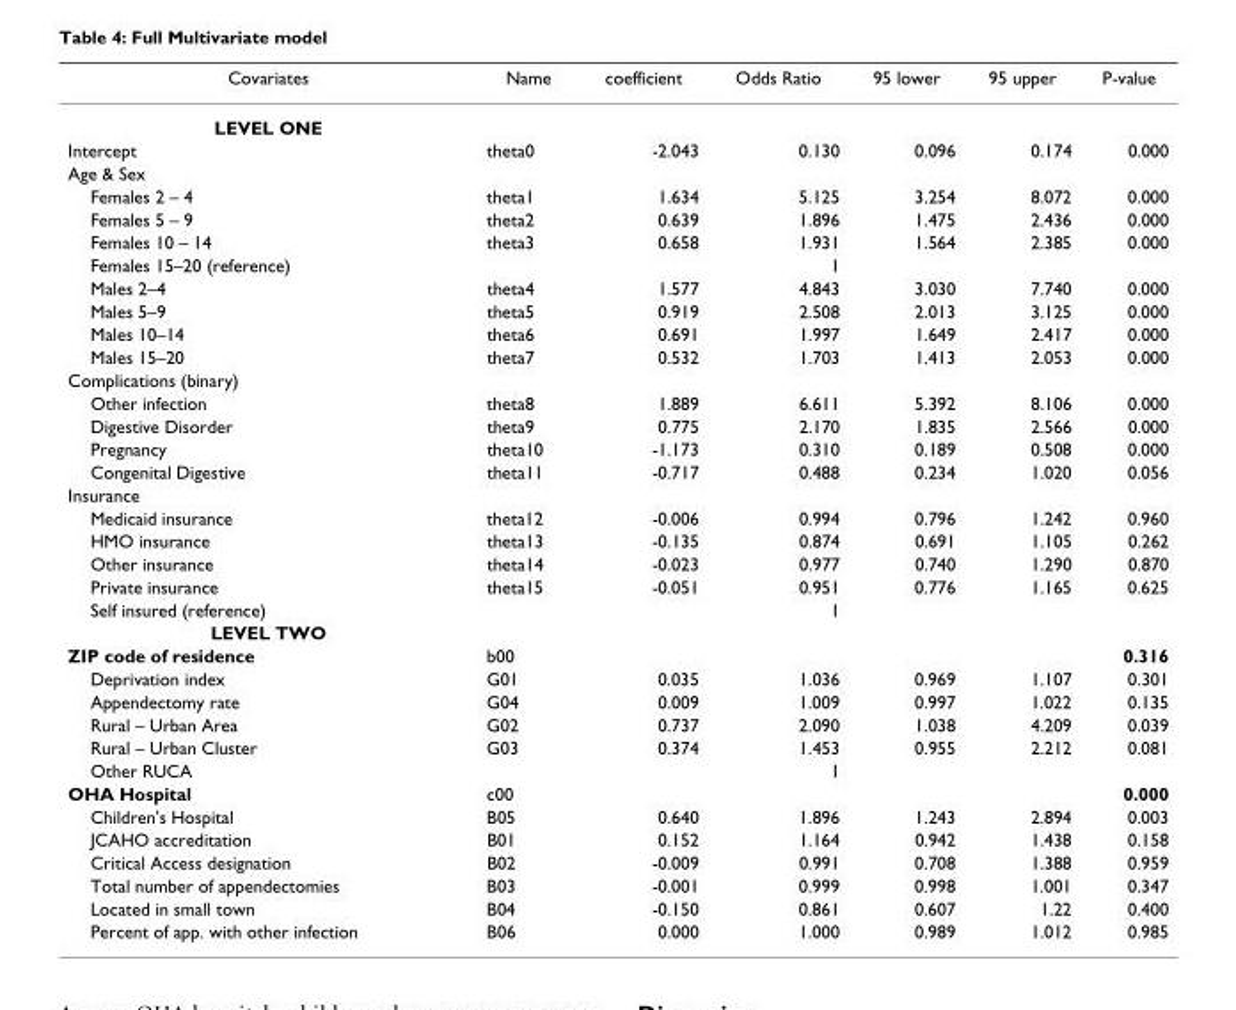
<table><thead><tr><td>Covariates</td><td>Name</td><td>coefficient</td><td>Odds Ratio</td><td>95 lower</td><td>95 upper</td><td>P-value</td></tr></thead><tbody><tr><td colspan="7">LEVEL ONE</td></tr><tr><td>Intercept</td><td>theta0</td><td>-2.043</td><td>0.130</td><td>0.096</td><td>0.174</td><td>0.000</td></tr><tr><td colspan="7">Age &amp; Sex</td></tr><tr><td>Females 2 – 4</td><td>theta1</td><td>1.634</td><td>5.125</td><td>3.254</td><td>8.072</td><td>0.000</td></tr><tr><td>Females 5 – 9</td><td>theta2</td><td>0.639</td><td>1.896</td><td>1.475</td><td>2.436</td><td>0.000</td></tr><tr><td>Females 10 – 14</td><td>theta3</td><td>0.658</td><td>1.931</td><td>1.564</td><td>2.385</td><td>0.000</td></tr><tr><td>Females 15–20 (reference)</td><td></td><td></td><td>1</td><td></td><td></td><td></td></tr><tr><td>Males 2–4</td><td>theta4</td><td>1.577</td><td>4.843</td><td>3.030</td><td>7.740</td><td>0.000</td></tr><tr><td>Males 5–9</td><td>theta5</td><td>0.919</td><td>2.508</td><td>2.013</td><td>3.125</td><td>0.000</td></tr><tr><td>Males 10–14</td><td>theta6</td><td>0.691</td><td>1.997</td><td>1.649</td><td>2.417</td><td>0.000</td></tr><tr><td>Males 15–20</td><td>theta7</td><td>0.532</td><td>1.703</td><td>1.413</td><td>2.053</td><td>0.000</td></tr><tr><td colspan="7">Complications (binary)</td></tr><tr><td>Other infection</td><td>theta8</td><td>1.889</td><td>6.611</td><td>5.392</td><td>8.106</td><td>0.000</td></tr><tr><td>Digestive Disorder</td><td>theta9</td><td>0.775</td><td>2.170</td><td>1.835</td><td>2.566</td><td>0.000</td></tr><tr><td>Pregnancy</td><td>theta10</td><td>-1.173</td><td>0.310</td><td>0.189</td><td>0.508</td><td>0.000</td></tr><tr><td>Congenital Digestive</td><td>theta11</td><td>-0.717</td><td>0.488</td><td>0.234</td><td>1.020</td><td>0.056</td></tr><tr><td colspan="7">Insurance</td></tr><tr><td>Medicaid insurance</td><td>theta12</td><td>-0.006</td><td>0.994</td><td>0.796</td><td>1.242</td><td>0.960</td></tr><tr><td>HMO insurance</td><td>theta13</td><td>-0.135</td><td>0.874</td><td>0.691</td><td>1.105</td><td>0.262</td></tr><tr><td>Other insurance</td><td>theta14</td><td>-0.023</td><td>0.977</td><td>0.740</td><td>1.290</td><td>0.870</td></tr><tr><td>Private insurance</td><td>theta15</td><td>-0.051</td><td>0.951</td><td>0.776</td><td>1.165</td><td>0.625</td></tr><tr><td>Self insured (reference)</td><td></td><td></td><td>1</td><td></td><td></td><td></td></tr><tr><td colspan="7">LEVEL TWO</td></tr><tr><td>ZIP code of residence</td><td>b00</td><td></td><td></td><td></td><td></td><td>0.316</td></tr><tr><td>Deprivation index</td><td>G01</td><td>0.035</td><td>1.036</td><td>0.969</td><td>1.107</td><td>0.301</td></tr><tr><td>Appendectomy rate</td><td>G04</td><td>0.009</td><td>1.009</td><td>0.997</td><td>1.022</td><td>0.135</td></tr><tr><td>Rural – Urban Area</td><td>G02</td><td>0.737</td><td>2.090</td><td>1.038</td><td>4.209</td><td>0.039</td></tr><tr><td>Rural – Urban Cluster</td><td>G03</td><td>0.374</td><td>1.453</td><td>0.955</td><td>2.212</td><td>0.081</td></tr><tr><td>Other RUCA</td><td></td><td></td><td>1</td><td></td><td></td><td></td></tr><tr><td>OHA Hospital</td><td>c00</td><td></td><td></td><td></td><td></td><td>0.000</td></tr><tr><td>Children&#x27;s Hospital</td><td>B05</td><td>0.640</td><td>1.896</td><td>1.243</td><td>2.894</td><td>0.003</td></tr><tr><td>JCAHO accreditation</td><td>B01</td><td>0.152</td><td>1.164</td><td>0.942</td><td>1.438</td><td>0.158</td></tr><tr><td>Critical Access designation</td><td>B02</td><td>-0.009</td><td>0.991</td><td>0.708</td><td>1.388</td><td>0.959</td></tr><tr><td>Total number of appendectomies</td><td>B03</td><td>-0.001</td><td>0.999</td><td>0.998</td><td>1.001</td><td>0.347</td></tr><tr><td>Located in small town</td><td>B04</td><td>-0.150</td><td>0.861</td><td>0.607</td><td>1.22</td><td>0.400</td></tr><tr><td>Percent of app. with other infection</td><td>B06</td><td>0.000</td><td>1.000</td><td>0.989</td><td>1.012</td><td>0.985</td></tr></tbody></table>